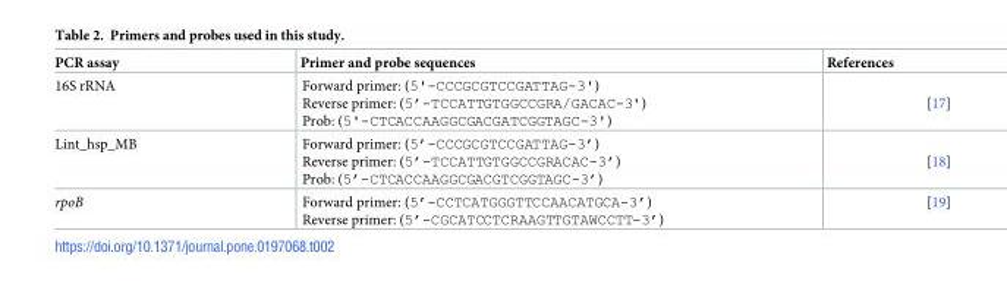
<table><thead><tr><td>PCR assay</td><td>Primer and probe sequences</td><td>References</td></tr></thead><tbody><tr><td>16S rRNA</td><td>Forward primer: (5&#x27;-CCCGCGTCCGATTAG-3&#x27;) Reverse primer: (5’-TCCATTGTGGCCGRA/GACAC-3&#x27;) Prob: (5&#x27;-CTCACCAAGGCGACGATCGGTAGC-3&#x27;)</td><td>[17]</td></tr><tr><td>Lint_hsp_MB</td><td>Forward primer: (5’-CCCGCGTCCGATTAG-3’) Reverse primer: (5’-TCCATTGTGGCCGRACAC-3’) Prob: (5’-CTCACCAAGGCGACGTCGGTAGC-3’)</td><td>[18]</td></tr><tr><td>rpoB</td><td>Forward primer: (5’-CCTCATGGGTTCCAACATGCA-3’) Reverse primer: (5’-CGCATCCTCRAAGTTGTAWCCTT-3’)</td><td>[19]</td></tr></tbody></table>